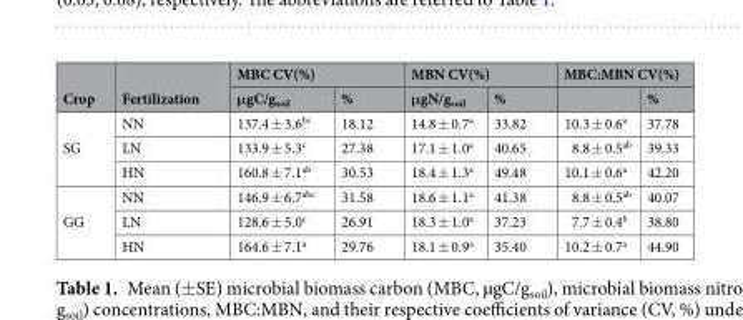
<table><thead><tr><td rowspan="2">Crop</td><td rowspan="2">Fertilization</td><td colspan="2">MBC CV(%)</td><td colspan="2">MBN CV(%)</td><td colspan="2">MBC:MBN CV(%)</td></tr><tr><td>μgC/g<sub>soil</sub></td><td>%</td><td>μgN/g<sub>soil</sub></td><td>%</td><td></td><td>%</td></tr></thead><tbody><tr><td rowspan="3">SG</td><td>NN</td><td>137.4 ± 3.6<sup>bc</sup></td><td>18.12</td><td>14.8 ± 0.7<sup>a</sup></td><td>33.82</td><td>10.3 ± 0.6<sup>a</sup></td><td>37.78</td></tr><tr><td>LN</td><td>133.9 ± 5.3<sup>c</sup></td><td>27.38</td><td>17.1 ± 1.0<sup>a</sup></td><td>40.65</td><td>8.8 ± 0.5<sup>ab</sup></td><td>39.33</td></tr><tr><td>HN</td><td>160.8 ± 7.1<sup>ab</sup></td><td>30.53</td><td>18.4 ± 1.3<sup>a</sup></td><td>49.48</td><td>10.1 ± 0.6<sup>a</sup></td><td>42.20</td></tr><tr><td rowspan="3">GG</td><td>NN</td><td>146.9 ± 6.7<sup>abc</sup></td><td>31.58</td><td>18.6 ± 1.1<sup>a</sup></td><td>41.38</td><td>8.8 ± 0.5<sup>ab</sup></td><td>40.07</td></tr><tr><td>LN</td><td>128.6 ± 5.0<sup>c</sup></td><td>26.91</td><td>18.3 ± 1.0<sup>a</sup></td><td>37.23</td><td>7.7 ± 0.4<sup>b</sup></td><td>38.80</td></tr><tr><td>HN</td><td>164.6 ± 7.1<sup>a</sup></td><td>29.76</td><td>18.1 ± 0.9<sup>a</sup></td><td>35.40</td><td>10.2 ± 0.7<sup>a</sup></td><td>44.90</td></tr></tbody></table>